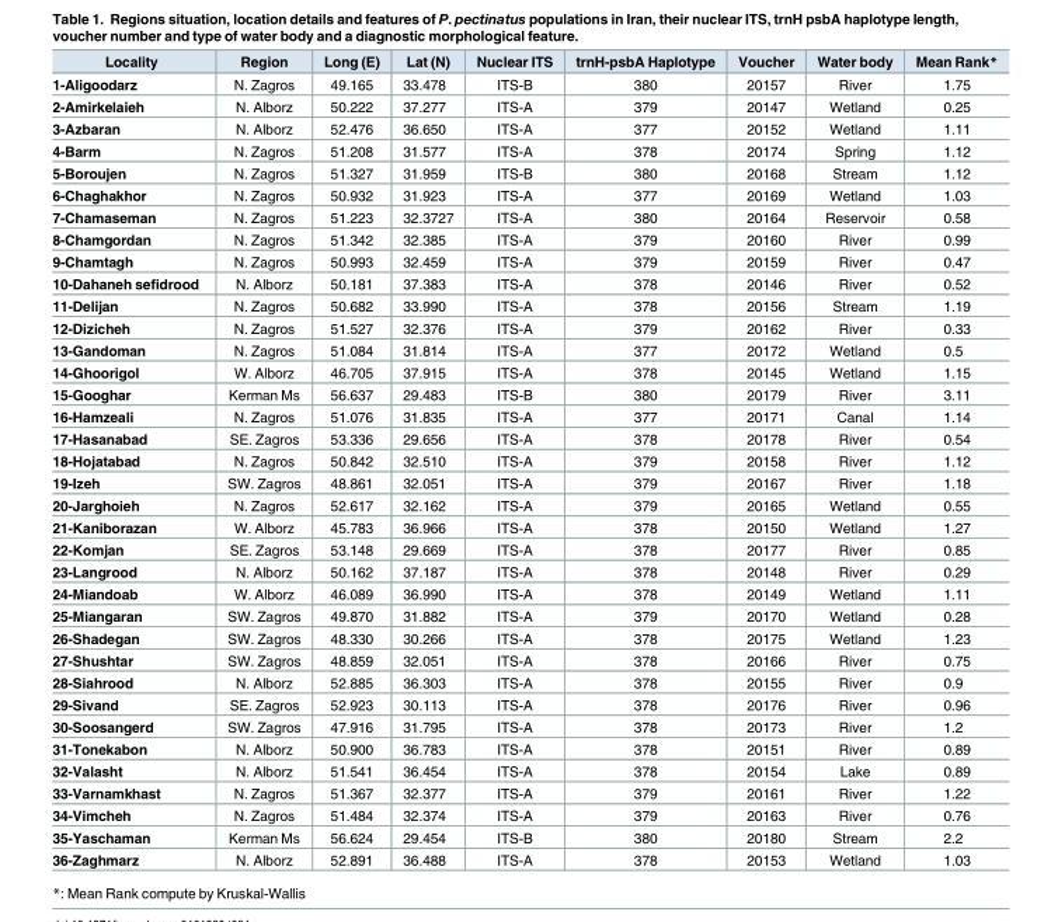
<table><thead><tr><td>Locality</td><td>Region</td><td>Long (E)</td><td>Lat (N)</td><td>Nuclear ITS</td><td>trnH-psbA Haplotype</td><td>Voucher</td><td>Water body</td><td>Mean Rank*</td></tr></thead><tbody><tr><td>1-Aligoodarz</td><td>N. Zagros</td><td>49.165</td><td>33.478</td><td>ITS-B</td><td>380</td><td>20157</td><td>River</td><td>1.75</td></tr><tr><td>2-Amirkelaieh</td><td>N. Alborz</td><td>50.222</td><td>37.277</td><td>ITS-A</td><td>379</td><td>20147</td><td>Wetland</td><td>0.25</td></tr><tr><td>3-Azbaran</td><td>N. Alborz</td><td>52.476</td><td>36.650</td><td>ITS-A</td><td>377</td><td>20152</td><td>Wetland</td><td>1.11</td></tr><tr><td>4-Barm</td><td>N. Zagros</td><td>51.208</td><td>31.577</td><td>ITS-A</td><td>378</td><td>20174</td><td>Spring</td><td>1.12</td></tr><tr><td>5-Boroujen</td><td>N. Zagros</td><td>51.327</td><td>31.959</td><td>ITS-B</td><td>380</td><td>20168</td><td>Stream</td><td>1.12</td></tr><tr><td>6-Chaghakhor</td><td>N. Zagros</td><td>50.932</td><td>31.923</td><td>ITS-A</td><td>377</td><td>20169</td><td>Wetland</td><td>1.03</td></tr><tr><td>7-Chamaseman</td><td>N. Zagros</td><td>51.223</td><td>32.3727</td><td>ITS-A</td><td>380</td><td>20164</td><td>Reservoir</td><td>0.58</td></tr><tr><td>8-Chamgordan</td><td>N. Zagros</td><td>51.342</td><td>32.385</td><td>ITS-A</td><td>379</td><td>20160</td><td>River</td><td>0.99</td></tr><tr><td>9-Chamtagh</td><td>N. Zagros</td><td>50.993</td><td>32.459</td><td>ITS-A</td><td>379</td><td>20159</td><td>River</td><td>0.47</td></tr><tr><td>10-Dahaneh sefidrood</td><td>N. Alborz</td><td>50.181</td><td>37.383</td><td>ITS-A</td><td>378</td><td>20146</td><td>River</td><td>0.52</td></tr><tr><td>11-Delijan</td><td>N. Zagros</td><td>50.682</td><td>33.990</td><td>ITS-A</td><td>378</td><td>20156</td><td>Stream</td><td>1.19</td></tr><tr><td>12-Dizicheh</td><td>N. Zagros</td><td>51.527</td><td>32.376</td><td>ITS-A</td><td>379</td><td>20162</td><td>River</td><td>0.33</td></tr><tr><td>13-Gandoman</td><td>N. Zagros</td><td>51.084</td><td>31.814</td><td>ITS-A</td><td>377</td><td>20172</td><td>Wetland</td><td>0.5</td></tr><tr><td>14-Ghoorigol</td><td>W. Alborz</td><td>46.705</td><td>37.915</td><td>ITS-A</td><td>378</td><td>20145</td><td>Wetland</td><td>1.15</td></tr><tr><td>15-Googhar</td><td>Kerman Ms</td><td>56.637</td><td>29.483</td><td>ITS-B</td><td>380</td><td>20179</td><td>River</td><td>3.11</td></tr><tr><td>16-Hamzeali</td><td>N. Zagros</td><td>51.076</td><td>31.835</td><td>ITS-A</td><td>377</td><td>20171</td><td>Canal</td><td>1.14</td></tr><tr><td>17-Hasanabad</td><td>SE. Zagros</td><td>53.336</td><td>29.656</td><td>ITS-A</td><td>378</td><td>20178</td><td>River</td><td>0.54</td></tr><tr><td>18-Hojatabad</td><td>N. Zagros</td><td>50.842</td><td>32.510</td><td>ITS-A</td><td>379</td><td>20158</td><td>River</td><td>1.12</td></tr><tr><td>19-Izeh</td><td>SW. Zagros</td><td>48.861</td><td>32.051</td><td>ITS-A</td><td>379</td><td>20167</td><td>River</td><td>1.18</td></tr><tr><td>20-Jarghoieh</td><td>N. Zagros</td><td>52.617</td><td>32.162</td><td>ITS-A</td><td>379</td><td>20165</td><td>Wetland</td><td>0.55</td></tr><tr><td>21-Kaniborazan</td><td>W. Alborz</td><td>45.783</td><td>36.966</td><td>ITS-A</td><td>378</td><td>20150</td><td>Wetland</td><td>1.27</td></tr><tr><td>22-Komjan</td><td>SE. Zagros</td><td>53.148</td><td>29.669</td><td>ITS-A</td><td>378</td><td>20177</td><td>River</td><td>0.85</td></tr><tr><td>23-Langrood</td><td>N. Alborz</td><td>50.162</td><td>37.187</td><td>ITS-A</td><td>378</td><td>20148</td><td>River</td><td>0.29</td></tr><tr><td>24-Miandoab</td><td>W. Alborz</td><td>46.089</td><td>36.990</td><td>ITS-A</td><td>378</td><td>20149</td><td>Wetland</td><td>1.11</td></tr><tr><td>25-Miangaran</td><td>SW. Zagros</td><td>49.870</td><td>31.882</td><td>ITS-A</td><td>379</td><td>20170</td><td>Wetland</td><td>0.28</td></tr><tr><td>26-Shadegan</td><td>SW. Zagros</td><td>48.330</td><td>30.266</td><td>ITS-A</td><td>378</td><td>20175</td><td>Wetland</td><td>1.23</td></tr><tr><td>27-Shushtar</td><td>SW. Zagros</td><td>48.859</td><td>32.051</td><td>ITS-A</td><td>378</td><td>20166</td><td>River</td><td>0.75</td></tr><tr><td>28-Siahrood</td><td>N. Alborz</td><td>52.885</td><td>36.303</td><td>ITS-A</td><td>378</td><td>20155</td><td>River</td><td>0.9</td></tr><tr><td>29-Sivand</td><td>SE. Zagros</td><td>52.923</td><td>30.113</td><td>ITS-A</td><td>378</td><td>20176</td><td>River</td><td>0.96</td></tr><tr><td>30-Soosangerd</td><td>SW. Zagros</td><td>47.916</td><td>31.795</td><td>ITS-A</td><td>378</td><td>20173</td><td>River</td><td>1.2</td></tr><tr><td>31-Tonekabon</td><td>N. Alborz</td><td>50.900</td><td>36.783</td><td>ITS-A</td><td>378</td><td>20151</td><td>River</td><td>0.89</td></tr><tr><td>32-Valasht</td><td>N. Alborz</td><td>51.541</td><td>36.454</td><td>ITS-A</td><td>378</td><td>20154</td><td>Lake</td><td>0.89</td></tr><tr><td>33-Varnamkhast</td><td>N. Zagros</td><td>51.367</td><td>32.377</td><td>ITS-A</td><td>379</td><td>20161</td><td>River</td><td>1.22</td></tr><tr><td>34-Vimcheh</td><td>N. Zagros</td><td>51.484</td><td>32.374</td><td>ITS-A</td><td>379</td><td>20163</td><td>River</td><td>0.76</td></tr><tr><td>35-Yaschaman</td><td>Kerman Ms</td><td>56.624</td><td>29.454</td><td>ITS-B</td><td>380</td><td>20180</td><td>Stream</td><td>2.2</td></tr><tr><td>36-Zaghmarz</td><td>N. Alborz</td><td>52.891</td><td>36.488</td><td>ITS-A</td><td>378</td><td>20153</td><td>Wetland</td><td>1.03</td></tr></tbody></table>